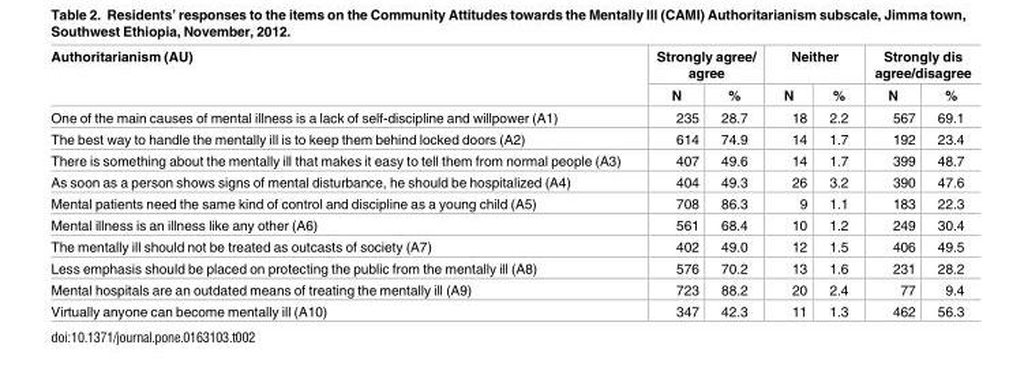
<table><thead><tr><td rowspan="2">Authoritarianism (AU)</td><td colspan="2">Strongly agree/ agree</td><td colspan="2">Neither</td><td colspan="2">Strongly dis agree/disagree</td></tr><tr><td>N</td><td>%</td><td>N</td><td>%</td><td>N</td><td>%</td></tr></thead><tbody><tr><td>One of the main causes of mental illness is a lack of self-discipline and willpower (A1)</td><td>235</td><td>28.7</td><td>18</td><td>2.2</td><td>567</td><td>69.1</td></tr><tr><td>The best way to handle the mentally ill is to keep them behind locked doors (A2)</td><td>614</td><td>74.9</td><td>14</td><td>1.7</td><td>192</td><td>23.4</td></tr><tr><td>There is something about the mentally ill that makes it easy to tell them from normal people (A3)</td><td>407</td><td>49.6</td><td>14</td><td>1.7</td><td>399</td><td>48.7</td></tr><tr><td>As soon as a person shows signs of mental disturbance, he should be hospitalized (A4)</td><td>404</td><td>49.3</td><td>26</td><td>3.2</td><td>390</td><td>47.6</td></tr><tr><td>Mental patients need the same kind of control and discipline as a young child (A5)</td><td>708</td><td>86.3</td><td>9</td><td>1.1</td><td>183</td><td>22.3</td></tr><tr><td>Mental illness is an illness like any other (A6)</td><td>561</td><td>68.4</td><td>10</td><td>1.2</td><td>249</td><td>30.4</td></tr><tr><td>The mentally ill should not be treated as outcasts of society (A7)</td><td>402</td><td>49.0</td><td>12</td><td>1.5</td><td>406</td><td>49.5</td></tr><tr><td>Less emphasis should be placed on protecting the public from the mentally ill (A8)</td><td>576</td><td>70.2</td><td>13</td><td>1.6</td><td>231</td><td>28.2</td></tr><tr><td>Mental hospitals are an outdated means of treating the mentally ill (A9)</td><td>723</td><td>88.2</td><td>20</td><td>2.4</td><td>77</td><td>9.4</td></tr><tr><td>Virtually anyone can become mentally ill (A10)</td><td>347</td><td>42.3</td><td>11</td><td>1.3</td><td>462</td><td>56.3</td></tr></tbody></table>